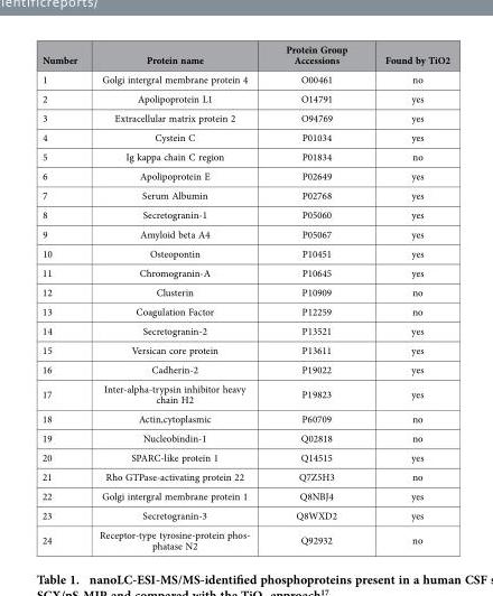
<table><thead><tr><td>Number</td><td>Protein name</td><td>Protein Group Accessions</td><td>Found by TiO2</td></tr></thead><tbody><tr><td>1</td><td>Golgi intergral membrane protein 4</td><td>O00461</td><td>no</td></tr><tr><td>2</td><td>Apolipoprotein L1</td><td>O14791</td><td>yes</td></tr><tr><td>3</td><td>Extracellular matrix protein 2</td><td>O94769</td><td>yes</td></tr><tr><td>4</td><td>Cystein C</td><td>P01034</td><td>yes</td></tr><tr><td>5</td><td>Ig kappa chain C region</td><td>P01834</td><td>no</td></tr><tr><td>6</td><td>Apolipoprotein E</td><td>P02649</td><td>yes</td></tr><tr><td>7</td><td>Serum Albumin</td><td>P02768</td><td>yes</td></tr><tr><td>8</td><td>Secretogranin-1</td><td>P05060</td><td>yes</td></tr><tr><td>9</td><td>Amyloid beta A4</td><td>P05067</td><td>yes</td></tr><tr><td>10</td><td>Osteopontin</td><td>P10451</td><td>yes</td></tr><tr><td>11</td><td>Chromogranin-A</td><td>P10645</td><td>yes</td></tr><tr><td>12</td><td>Clusterin</td><td>P10909</td><td>no</td></tr><tr><td>13</td><td>Coagulation Factor</td><td>P12259</td><td>no</td></tr><tr><td>14</td><td>Secretogranin-2</td><td>P13521</td><td>yes</td></tr><tr><td>15</td><td>Versican core protein</td><td>P13611</td><td>yes</td></tr><tr><td>16</td><td>Cadherin-2</td><td>P19022</td><td>yes</td></tr><tr><td>17</td><td>Inter-alpha-trypsin inhibitor heavy chain H2</td><td>P19823</td><td>yes</td></tr><tr><td>18</td><td>Actin,cytoplasmic</td><td>P60709</td><td>no</td></tr><tr><td>19</td><td>Nucleobindin-1</td><td>Q02818</td><td>no</td></tr><tr><td>20</td><td>SPARC-like protein 1</td><td>Q14515</td><td>yes</td></tr><tr><td>21</td><td>Rho GTPase-activating protein 22</td><td>Q7Z5H3</td><td>no</td></tr><tr><td>22</td><td>Golgi intergral membrane protein 1</td><td>Q8NBJ4</td><td>yes</td></tr><tr><td>23</td><td>Secretogranin-3</td><td>Q8WXD2</td><td>yes</td></tr><tr><td>24</td><td>Receptor-type tyrosine-protein phos- phatase N2</td><td>Q92932</td><td>no</td></tr></tbody></table>